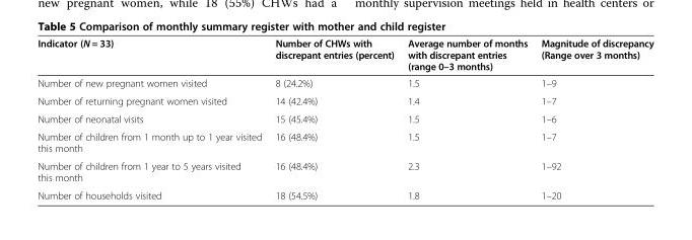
<table><thead><tr><td>Indicator (N = 33)</td><td>Number of CHWs with discrepant entries (percent)</td><td>Average number of months with discrepant entries (range 0–3 months)</td><td>Magnitude of discrepancy (Range over 3 months)</td></tr></thead><tbody><tr><td>Number of new pregnant women visited</td><td>8 (24.2%)</td><td>1.5</td><td>1–9</td></tr><tr><td>Number of returning pregnant women visited</td><td>14 (42.4%)</td><td>1.4</td><td>1–7</td></tr><tr><td>Number of neonatal visits</td><td>15 (45.4%)</td><td>1.5</td><td>1–6</td></tr><tr><td>Number of children from 1 month up to 1 year visited this month</td><td>16 (48.4%)</td><td>1.5</td><td>1–7</td></tr><tr><td>Number of children from 1 year to 5 years visited this month</td><td>16 (48.4%)</td><td>2.3</td><td>1–92</td></tr><tr><td>Number of households visited</td><td>18 (54.5%)</td><td>1.8</td><td>1–20</td></tr></tbody></table>